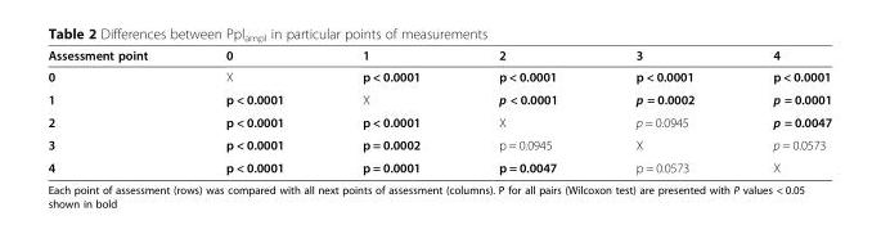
<table><thead><tr><td>Assessment point</td><td>0</td><td>1</td><td>2</td><td>3</td><td>4</td></tr></thead><tbody><tr><td>0</td><td>X</td><td>p &lt; 0.0001</td><td>p &lt; 0.0001</td><td>p &lt; 0.0001</td><td>p &lt; 0.0001</td></tr><tr><td>1</td><td>p &lt; 0.0001</td><td>X</td><td>p &lt; 0.0001</td><td>p = 0.0002</td><td>p = 0.0001</td></tr><tr><td>2</td><td>p &lt; 0.0001</td><td>p &lt; 0.0001</td><td>X</td><td>p = 0.0945</td><td>p = 0.0047</td></tr><tr><td>3</td><td>p &lt; 0.0001</td><td>p = 0.0002</td><td>p = 0.0945</td><td>X</td><td>p = 0.0573</td></tr><tr><td>4</td><td>p &lt; 0.0001</td><td>p = 0.0001</td><td>p = 0.0047</td><td>p = 0.0573</td><td>X</td></tr></tbody></table>